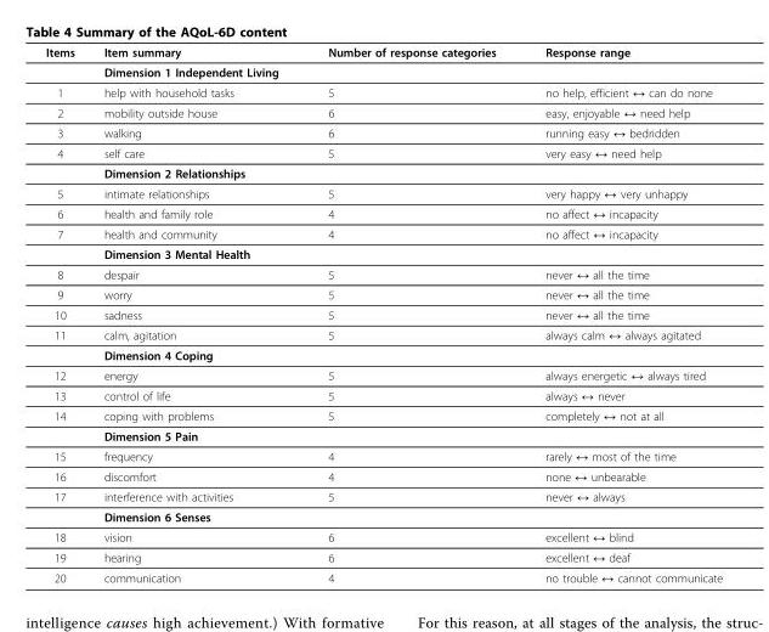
<table><thead><tr><td>Items</td><td>Item summary</td><td>Number of response categories</td><td>Response range</td></tr></thead><tbody><tr><td></td><td>Dimension 1 Independent Living</td><td></td><td></td></tr><tr><td>1</td><td>help with household tasks</td><td>5</td><td>no help, efficient ↔ can do none</td></tr><tr><td>2</td><td>mobility outside house</td><td>6</td><td>easy, enjoyable ↔ need help</td></tr><tr><td>3</td><td>walking</td><td>6</td><td>running easy ↔ bedridden</td></tr><tr><td rowspan="2">4</td><td>self care</td><td>5</td><td>very easy ↔ need help</td></tr><tr><td>Dimension 2 Relationships</td><td></td><td></td></tr><tr><td>5</td><td>intimate relationships</td><td>5</td><td>very happy ↔ very unhappy</td></tr><tr><td>6</td><td>health and family role</td><td>4</td><td>no affect ↔ incapacity</td></tr><tr><td rowspan="2">7</td><td>health and community</td><td>4</td><td>no affect ↔ incapacity</td></tr><tr><td>Dimension 3 Mental Health</td><td></td><td></td></tr><tr><td>8</td><td>despair</td><td>5</td><td>never ↔ all the time</td></tr><tr><td>9</td><td>worry</td><td>5</td><td>never ↔ all the time</td></tr><tr><td>10</td><td>sadness</td><td>5</td><td>never ↔ all the time</td></tr><tr><td rowspan="2">11</td><td>calm, agitation</td><td>5</td><td>always calm ↔ always agitated</td></tr><tr><td>Dimension 4 Coping</td><td></td><td></td></tr><tr><td>12</td><td>energy</td><td>5</td><td>always energetic ↔ always tired</td></tr><tr><td>13</td><td>control of life</td><td>5</td><td>always ↔ never</td></tr><tr><td rowspan="2">14</td><td>coping with problems</td><td>5</td><td>completely ↔ not at all</td></tr><tr><td>Dimension 5 Pain</td><td></td><td></td></tr><tr><td>15</td><td>frequency</td><td>4</td><td>rarely ↔ most of the time</td></tr><tr><td>16</td><td>discomfort</td><td>4</td><td>none ↔ unbearable</td></tr><tr><td rowspan="2">17</td><td>interference with activities</td><td>5</td><td>never ↔ always</td></tr><tr><td>Dimension 6 Senses</td><td></td><td></td></tr><tr><td>18</td><td>vision</td><td>6</td><td>excellent ↔ blind</td></tr><tr><td>19</td><td>hearing</td><td>6</td><td>excellent ↔ deaf</td></tr><tr><td>20</td><td>communication</td><td>4</td><td>no trouble ↔ cannot communicate</td></tr></tbody></table>